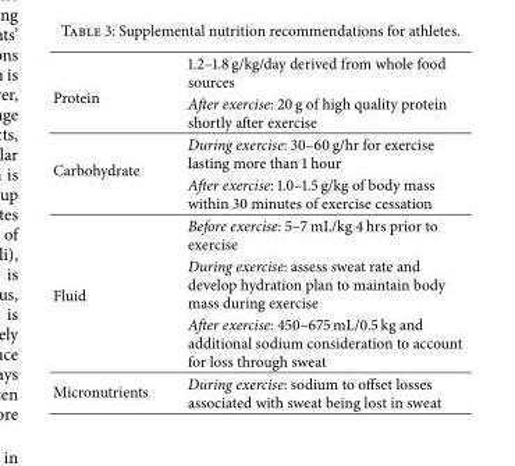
<table><tbody><tr><td rowspan="2">Protein</td><td>1.2–1.8 g/kg/day derived from whole food sources</td></tr><tr><td>After exercise: 20 g of high quality protein shortly after exercise</td></tr><tr><td rowspan="2">Carbohydrate</td><td>During exercise: 30–60 g/hr for exercise lasting more than 1 hour</td></tr><tr><td>After exercise: 1.0–1.5 g/kg of body mass within 30 minutes of exercise cessation</td></tr><tr><td rowspan="3">Fluid</td><td>Before exercise: 5–7 mL/kg 4 hrs prior to exercise</td></tr><tr><td>During exercise: assess sweat rate and develop hydration plan to maintain body mass during exercise</td></tr><tr><td>After exercise: 450–675 mL/0.5 kg and additional sodium consideration to account for loss through sweat</td></tr><tr><td>Micronutrients</td><td>During exercise: sodium to offset losses associated with sweat being lost in sweat</td></tr></tbody></table>